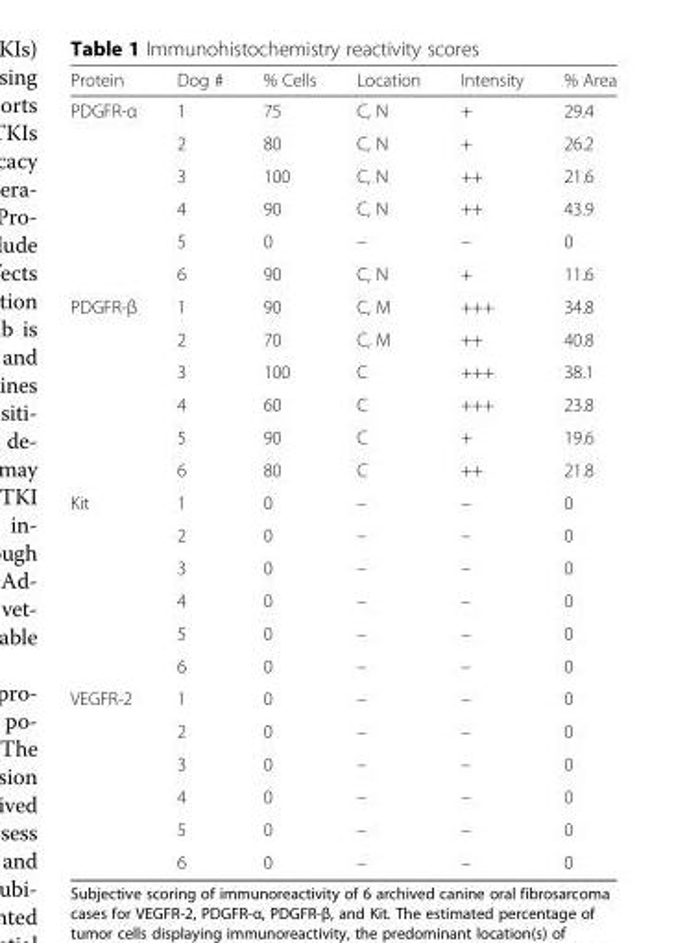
<table><thead><tr><td>Protein</td><td>Dog #</td><td>% Cells</td><td>Location</td><td>Intensity</td><td>% Area</td></tr></thead><tbody><tr><td rowspan="6">PDGFR-α</td><td>1</td><td>75</td><td>C, N</td><td>+</td><td>29.4</td></tr><tr><td>2</td><td>80</td><td>C, N</td><td>+</td><td>26.2</td></tr><tr><td>3</td><td>100</td><td>C, N</td><td>++</td><td>21.6</td></tr><tr><td>4</td><td>90</td><td>C, N</td><td>++</td><td>43.9</td></tr><tr><td>5</td><td>0</td><td>–</td><td>–</td><td>0</td></tr><tr><td>6</td><td>90</td><td>C, N</td><td>+</td><td>11.6</td></tr><tr><td rowspan="6">PDGFR-β</td><td>1</td><td>90</td><td>C, M</td><td>+++</td><td>34.8</td></tr><tr><td>2</td><td>70</td><td>C, M</td><td>++</td><td>40.8</td></tr><tr><td>3</td><td>100</td><td>C</td><td>+++</td><td>38.1</td></tr><tr><td>4</td><td>60</td><td>C</td><td>+++</td><td>23.8</td></tr><tr><td>5</td><td>90</td><td>C</td><td>+</td><td>19.6</td></tr><tr><td>6</td><td>80</td><td>C</td><td>++</td><td>21.8</td></tr><tr><td rowspan="6">Kit</td><td>1</td><td>0</td><td>–</td><td>–</td><td>0</td></tr><tr><td>2</td><td>0</td><td>–</td><td>–</td><td>0</td></tr><tr><td>3</td><td>0</td><td>–</td><td>–</td><td>0</td></tr><tr><td>4</td><td>0</td><td>–</td><td>–</td><td>0</td></tr><tr><td>5</td><td>0</td><td>–</td><td>–</td><td>0</td></tr><tr><td>6</td><td>0</td><td>–</td><td>–</td><td>0</td></tr><tr><td rowspan="6">VEGFR-2</td><td>1</td><td>0</td><td>–</td><td>–</td><td>0</td></tr><tr><td>2</td><td>0</td><td>–</td><td>–</td><td>0</td></tr><tr><td>3</td><td>0</td><td>–</td><td>–</td><td>0</td></tr><tr><td>4</td><td>0</td><td>–</td><td>–</td><td>0</td></tr><tr><td>5</td><td>0</td><td>–</td><td>–</td><td>0</td></tr><tr><td>6</td><td>0</td><td>–</td><td>–</td><td>0</td></tr></tbody></table>